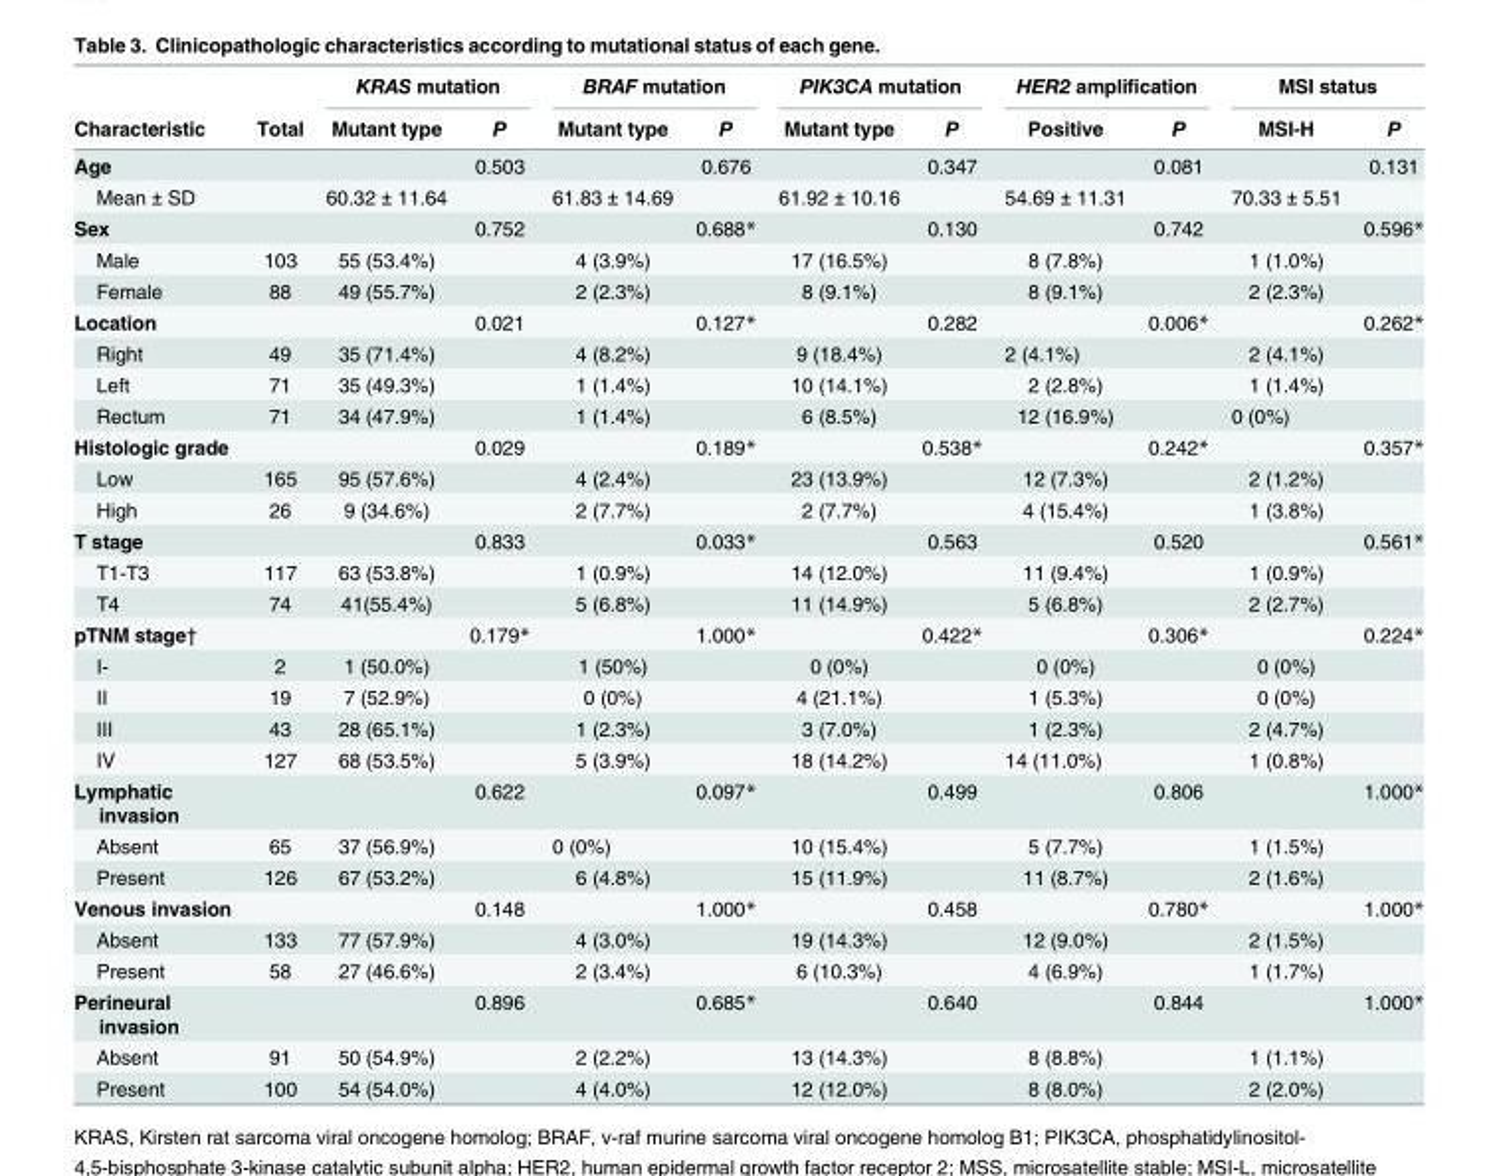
<table><thead><tr><td rowspan="2">Characteristic</td><td rowspan="2">Total</td><td colspan="2">KRAS mutation</td><td colspan="2">BRAF mutation</td><td colspan="2">PIK3CA mutation</td><td colspan="2">HER2 amplification</td><td colspan="2">MSI status</td></tr><tr><td>Mutant type</td><td>P</td><td>Mutant type</td><td>P</td><td>Mutant type</td><td>P</td><td>Positive</td><td>P</td><td>MSI-H</td><td>P</td></tr></thead><tbody><tr><td>Age</td><td></td><td></td><td>0.503</td><td></td><td>0.676</td><td></td><td>0.347</td><td></td><td>0.081</td><td></td><td>0.131</td></tr><tr><td>Mean ± SD</td><td></td><td>60.32 ± 11.64</td><td></td><td>61.83 ± 14.69</td><td></td><td>61.92 ± 10.16</td><td></td><td>54.69 ± 11.31</td><td></td><td>70.33 ± 5.51</td><td></td></tr><tr><td>Sex</td><td></td><td></td><td>0.752</td><td></td><td>0.688*</td><td></td><td>0.130</td><td></td><td>0.742</td><td></td><td>0.596*</td></tr><tr><td>Male</td><td>103</td><td>55 (53.4%)</td><td></td><td>4 (3.9%)</td><td></td><td>17 (16.5%)</td><td></td><td>8 (7.8%)</td><td></td><td>1 (1.0%)</td><td></td></tr><tr><td>Female</td><td>88</td><td>49 (55.7%)</td><td></td><td>2 (2.3%)</td><td></td><td>8 (9.1%)</td><td></td><td>8 (9.1%)</td><td></td><td>2 (2.3%)</td><td></td></tr><tr><td>Location</td><td></td><td></td><td>0.021</td><td></td><td>0.127*</td><td></td><td>0.282</td><td></td><td>0.006*</td><td></td><td>0.262*</td></tr><tr><td>Right</td><td>49</td><td>35 (71.4%)</td><td></td><td>4 (8.2%)</td><td></td><td>9 (18.4%)</td><td></td><td>2 (4.1%)</td><td></td><td>2 (4.1%)</td><td></td></tr><tr><td>Left</td><td>71</td><td>35 (49.3%)</td><td></td><td>1 (1.4%)</td><td></td><td>10 (14.1%)</td><td></td><td>2 (2.8%)</td><td></td><td>1 (1.4%)</td><td></td></tr><tr><td>Rectum</td><td>71</td><td>34 (47.9%)</td><td></td><td>1 (1.4%)</td><td></td><td>6 (8.5%)</td><td></td><td>12 (16.9%)</td><td></td><td>0 (0%)</td><td></td></tr><tr><td>Histologic grade</td><td></td><td></td><td>0.029</td><td></td><td>0.189*</td><td></td><td>0.538*</td><td></td><td>0.242*</td><td></td><td>0.357*</td></tr><tr><td>Low</td><td>165</td><td>95 (57.6%)</td><td></td><td>4 (2.4%)</td><td></td><td>23 (13.9%)</td><td></td><td>12 (7.3%)</td><td></td><td>2 (1.2%)</td><td></td></tr><tr><td>High</td><td>26</td><td>9 (34.6%)</td><td></td><td>2 (7.7%)</td><td></td><td>2 (7.7%)</td><td></td><td>4 (15.4%)</td><td></td><td>1 (3.8%)</td><td></td></tr><tr><td>T stage</td><td></td><td></td><td>0.833</td><td></td><td>0.033*</td><td></td><td>0.563</td><td></td><td>0.520</td><td></td><td>0.561*</td></tr><tr><td>T1-T3</td><td>117</td><td>63 (53.8%)</td><td></td><td>1 (0.9%)</td><td></td><td>14 (12.0%)</td><td></td><td>11 (9.4%)</td><td></td><td>1 (0.9%)</td><td></td></tr><tr><td>T4</td><td>74</td><td>41(55.4%)</td><td></td><td>5 (6.8%)</td><td></td><td>11 (14.9%)</td><td></td><td>5 (6.8%)</td><td></td><td>2 (2.7%)</td><td></td></tr><tr><td>pTNM stage†</td><td></td><td></td><td>0.179*</td><td></td><td>1.000*</td><td></td><td>0.422*</td><td></td><td>0.306*</td><td></td><td>0.224*</td></tr><tr><td>I-</td><td>2</td><td>1 (50.0%)</td><td></td><td>1 (50%)</td><td></td><td>0 (0%)</td><td></td><td>0 (0%)</td><td></td><td>0 (0%)</td><td></td></tr><tr><td>II</td><td>19</td><td>7 (52.9%)</td><td></td><td>0 (0%)</td><td></td><td>4 (21.1%)</td><td></td><td>1 (5.3%)</td><td></td><td>0 (0%)</td><td></td></tr><tr><td>III</td><td>43</td><td>28 (65.1%)</td><td></td><td>1 (2.3%)</td><td></td><td>3 (7.0%)</td><td></td><td>1 (2.3%)</td><td></td><td>2 (4.7%)</td><td></td></tr><tr><td>IV</td><td>127</td><td>68 (53.5%)</td><td></td><td>5 (3.9%)</td><td></td><td>18 (14.2%)</td><td></td><td>14 (11.0%)</td><td></td><td>1 (0.8%)</td><td></td></tr><tr><td>Lymphatic invasion</td><td></td><td></td><td>0.622</td><td></td><td>0.097*</td><td></td><td>0.499</td><td></td><td>0.806</td><td></td><td>1.000*</td></tr><tr><td>Absent</td><td>65</td><td>37 (56.9%)</td><td></td><td>0 (0%)</td><td></td><td>10 (15.4%)</td><td></td><td>5 (7.7%)</td><td></td><td>1 (1.5%)</td><td></td></tr><tr><td>Present</td><td>126</td><td>67 (53.2%)</td><td></td><td>6 (4.8%)</td><td></td><td>15 (11.9%)</td><td></td><td>11 (8.7%)</td><td></td><td>2 (1.6%)</td><td></td></tr><tr><td>Venous invasion</td><td></td><td></td><td>0.148</td><td></td><td>1.000*</td><td></td><td>0.458</td><td></td><td>0.780*</td><td></td><td>1.000*</td></tr><tr><td>Absent</td><td>133</td><td>77 (57.9%)</td><td></td><td>4 (3.0%)</td><td></td><td>19 (14.3%)</td><td></td><td>12 (9.0%)</td><td></td><td>2 (1.5%)</td><td></td></tr><tr><td>Present</td><td>58</td><td>27 (46.6%)</td><td></td><td>2 (3.4%)</td><td></td><td>6 (10.3%)</td><td></td><td>4 (6.9%)</td><td></td><td>1 (1.7%)</td><td></td></tr><tr><td>Perineural invasion</td><td></td><td></td><td>0.896</td><td></td><td>0.685*</td><td></td><td>0.640</td><td></td><td>0.844</td><td></td><td>1.000*</td></tr><tr><td>Absent</td><td>91</td><td>50 (54.9%)</td><td></td><td>2 (2.2%)</td><td></td><td>13 (14.3%)</td><td></td><td>8 (8.8%)</td><td></td><td>1 (1.1%)</td><td></td></tr><tr><td>Present</td><td>100</td><td>54 (54.0%)</td><td></td><td>4 (4.0%)</td><td></td><td>12 (12.0%)</td><td></td><td>8 (8.0%)</td><td></td><td>2 (2.0%)</td><td></td></tr></tbody></table>